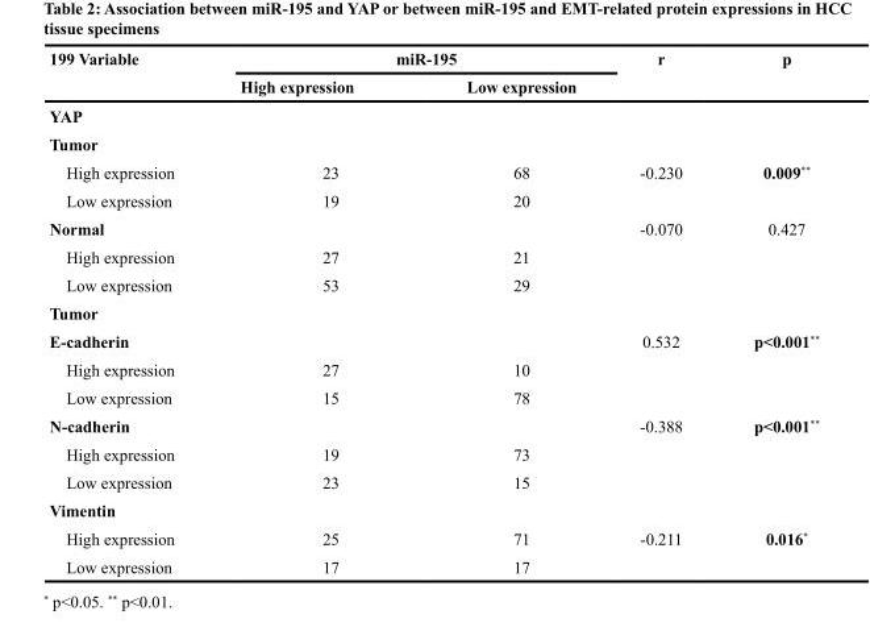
<table><thead><tr><td rowspan="2">199 Variable</td><td colspan="2">miR-195</td><td rowspan="2">r</td><td rowspan="2">p</td></tr><tr><td>High expression</td><td>Low expression</td></tr></thead><tbody><tr><td colspan="5">YAP</td></tr><tr><td colspan="5">Tumor</td></tr><tr><td>High expression</td><td>23</td><td>68</td><td>-0.230</td><td>0.009**</td></tr><tr><td>Low expression</td><td>19</td><td>20</td><td></td><td></td></tr><tr><td>Normal</td><td></td><td></td><td>-0.070</td><td>0.427</td></tr><tr><td>High expression</td><td>27</td><td>21</td><td></td><td></td></tr><tr><td>Low expression</td><td>53</td><td>29</td><td></td><td></td></tr><tr><td colspan="5">Tumor</td></tr><tr><td>E-cadherin</td><td></td><td></td><td>0.532</td><td>p&lt;0.001**</td></tr><tr><td>High expression</td><td>27</td><td>10</td><td></td><td></td></tr><tr><td>Low expression</td><td>15</td><td>78</td><td></td><td></td></tr><tr><td>N-cadherin</td><td></td><td></td><td>-0.388</td><td>p&lt;0.001**</td></tr><tr><td>High expression</td><td>19</td><td>73</td><td></td><td></td></tr><tr><td>Low expression</td><td>23</td><td>15</td><td></td><td></td></tr><tr><td colspan="5">Vimentin</td></tr><tr><td>High expression</td><td>25</td><td>71</td><td>-0.211</td><td>0.016*</td></tr><tr><td>Low expression</td><td>17</td><td>17</td><td></td><td></td></tr></tbody></table>